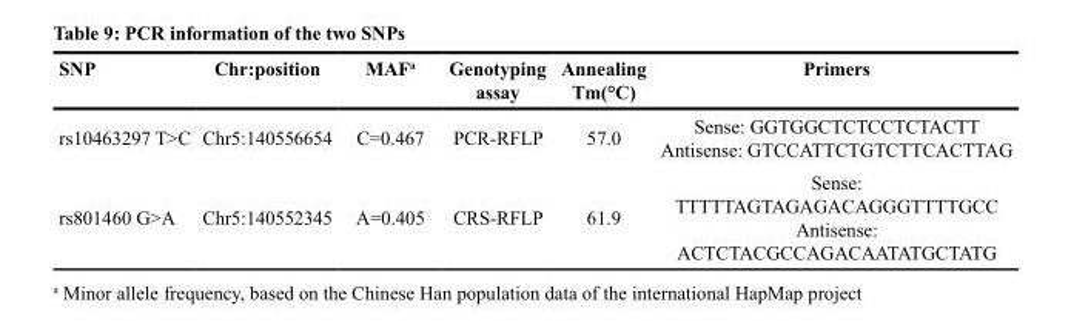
<table><thead><tr><td>SNP</td><td>Chr:position</td><td>MAF<sup>a</sup></td><td>Genotyping assay</td><td>Annealing Tm(°C)</td><td>Primers</td></tr></thead><tbody><tr><td>rs10463297 T&gt;C</td><td>Chr5:140556654</td><td>C=0.467</td><td>PCR-RFLP</td><td>57.0</td><td>Sense: GGTGGCTCTCCTCTACTT Antisense: GTCCATTCTGTCTTCACTTAG</td></tr><tr><td>rs801460 G&gt;A</td><td>Chr5:140552345</td><td>A=0.405</td><td>CRS-RFLP</td><td>61.9</td><td>Sense: TTTTTAGTAGAGACAGGGTTTTGCC Antisense: ACTCTACGCCAGACAATATGCTATG</td></tr></tbody></table>